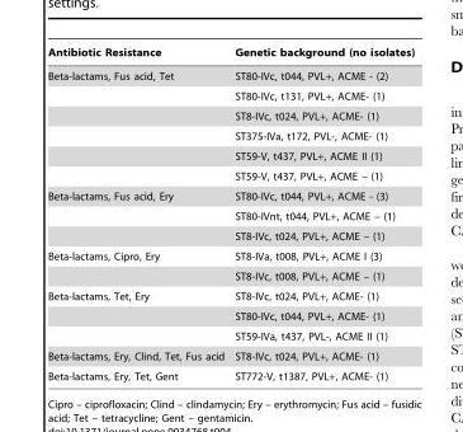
<table><thead><tr><td>Antibiotic Resistance</td><td>Genetic background (no isolates)</td></tr></thead><tbody><tr><td rowspan="6">Beta-lactams, Fus acid, Tet</td><td>ST80-IVc, t044, PVL+, ACME - (2)</td></tr><tr><td>ST80-IVc, t131, PVL+, ACME- (1)</td></tr><tr><td>ST8-IVc, t024, PVL+, ACME- (1)</td></tr><tr><td>ST375-IVa, t172, PVL-, ACME- (1)</td></tr><tr><td>ST59-V, t437, PVL+, ACME II (1)</td></tr><tr><td>ST59-V, t437, PVL+, ACME – (1)</td></tr><tr><td rowspan="3">Beta-lactams, Fus acid, Ery</td><td>ST80-IVc, t044, PVL+, ACME - (3)</td></tr><tr><td>ST80-IVnt, t044, PVL+, ACME – (1)</td></tr><tr><td>ST8-IVc, t024, PVL+, ACME – (1)</td></tr><tr><td rowspan="2">Beta-lactams, Cipro, Ery</td><td>ST8-IVa, t008, PVL+, ACME I (3)</td></tr><tr><td>ST8-IVc, t008, PVL+, ACME – (1)</td></tr><tr><td rowspan="3">Beta-lactams, Tet, Ery</td><td>ST8-IVc, t024, PVL+, ACME- (1)</td></tr><tr><td>ST80-IVc, t044, PVL+, ACME- (1)</td></tr><tr><td>ST59-IVa, t437, PVL-, ACME II (1)</td></tr><tr><td>Beta-lactams, Ery, Clind, Tet, Fus acid</td><td>ST8-IVc, t024, PVL+, ACME- (1)</td></tr><tr><td>Beta-lactams, Ery, Tet, Gent</td><td>ST772-V, t1387, PVL+, ACME- (1)</td></tr></tbody></table>